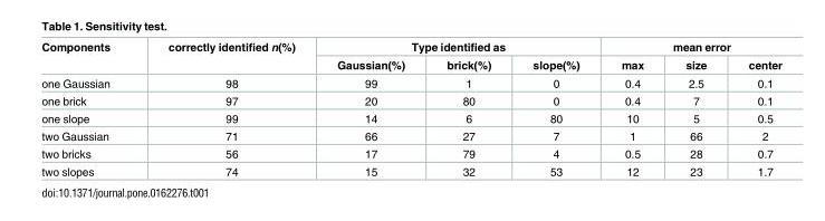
<table><thead><tr><td rowspan="2">Components</td><td rowspan="2">correctly identified n(%)</td><td colspan="3">Type identified as</td><td colspan="3">mean error</td></tr><tr><td>Gaussian(%)</td><td>brick(%)</td><td>slope(%)</td><td>max</td><td>size</td><td>center</td></tr></thead><tbody><tr><td>one Gaussian</td><td>98</td><td>99</td><td>1</td><td>0</td><td>0.4</td><td>2.5</td><td>0.1</td></tr><tr><td>one brick</td><td>97</td><td>20</td><td>80</td><td>0</td><td>0.4</td><td>7</td><td>0.1</td></tr><tr><td>one slope</td><td>99</td><td>14</td><td>6</td><td>80</td><td>10</td><td>5</td><td>0.5</td></tr><tr><td>two Gaussian</td><td>71</td><td>66</td><td>27</td><td>7</td><td>1</td><td>66</td><td>2</td></tr><tr><td>two bricks</td><td>56</td><td>17</td><td>79</td><td>4</td><td>0.5</td><td>28</td><td>0.7</td></tr><tr><td>two slopes</td><td>74</td><td>15</td><td>32</td><td>53</td><td>12</td><td>23</td><td>1.7</td></tr></tbody></table>